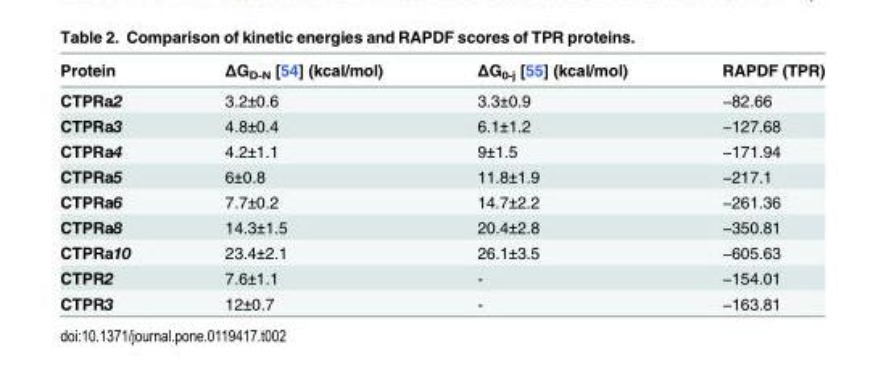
<table><thead><tr><td>Protein</td><td>ΔG<sub>D-N</sub> [54] (kcal/mol)</td><td>ΔG<sub>0-j</sub> [55] (kcal/mol)</td><td>RAPDF (TPR)</td></tr></thead><tbody><tr><td>CTPRa2</td><td>3.2±0.6</td><td>3.3±0.9</td><td>−82.66</td></tr><tr><td>CTPRa3</td><td>4.8±0.4</td><td>6.1±1.2</td><td>−127.68</td></tr><tr><td>CTPRa4</td><td>4.2±1.1</td><td>9±1.5</td><td>−171.94</td></tr><tr><td>CTPRa5</td><td>6±0.8</td><td>11.8±1.9</td><td>−217.1</td></tr><tr><td>CTPRa6</td><td>7.7±0.2</td><td>14.7±2.2</td><td>−261.36</td></tr><tr><td>CTPRa8</td><td>14.3±1.5</td><td>20.4±2.8</td><td>−350.81</td></tr><tr><td>CTPRa10</td><td>23.4±2.1</td><td>26.1±3.5</td><td>−605.63</td></tr><tr><td>CTPR2</td><td>7.6±1.1</td><td>-</td><td>−154.01</td></tr><tr><td>CTPR3</td><td>12±0.7</td><td>-</td><td>−163.81</td></tr></tbody></table>